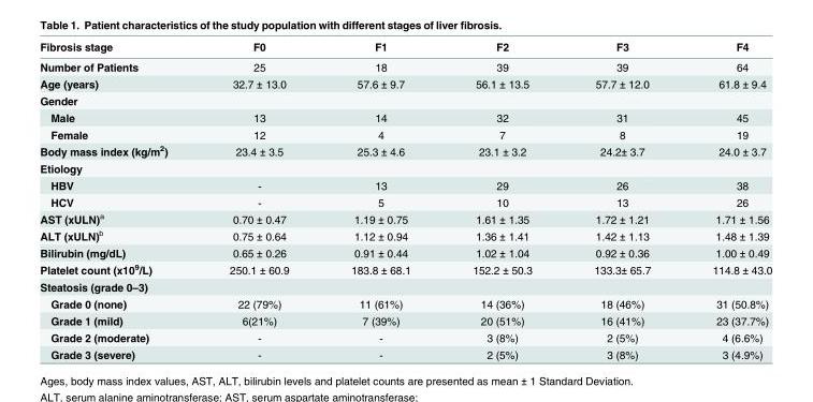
<table><thead><tr><td>Fibrosis stage</td><td>F0</td><td>F1</td><td>F2</td><td>F3</td><td>F4</td></tr></thead><tbody><tr><td>Number of Patients</td><td>25</td><td>18</td><td>39</td><td>39</td><td>64</td></tr><tr><td>Age (years)</td><td>32.7 ± 13.0</td><td>57.6 ± 9.7</td><td>56.1 ± 13.5</td><td>57.7 ± 12.0</td><td>61.8 ± 9.4</td></tr><tr><td colspan="6">Gender</td></tr><tr><td>Male</td><td>13</td><td>14</td><td>32</td><td>31</td><td>45</td></tr><tr><td>Female</td><td>12</td><td>4</td><td>7</td><td>8</td><td>19</td></tr><tr><td>Body mass index (kg/m<sup>2</sup>)</td><td>23.4 ± 3.5</td><td>25.3 ± 4.6</td><td>23.1 ± 3.2</td><td>24.2± 3.7</td><td>24.0 ± 3.7</td></tr><tr><td colspan="6">Etiology</td></tr><tr><td>HBV</td><td>-</td><td>13</td><td>29</td><td>26</td><td>38</td></tr><tr><td>HCV</td><td>-</td><td>5</td><td>10</td><td>13</td><td>26</td></tr><tr><td>AST (xULN)<sup>a</sup></td><td>0.70 ± 0.47</td><td>1.19 ± 0.75</td><td>1.61 ± 1.35</td><td>1.72 ± 1.21</td><td>1.71 ± 1.56</td></tr><tr><td>ALT (xULN)<sup>b</sup></td><td>0.75 ± 0.64</td><td>1.12 ± 0.94</td><td>1.36 ± 1.41</td><td>1.42 ± 1.13</td><td>1.48 ± 1.39</td></tr><tr><td>Bilirubin (mg/dL)</td><td>0.65 ± 0.26</td><td>0.91 ± 0.44</td><td>1.02 ± 1.04</td><td>0.92 ± 0.36</td><td>1.00 ± 0.49</td></tr><tr><td>Platelet count (x10<sup>9</sup>/L)</td><td>250.1 ± 60.9</td><td>183.8 ± 68.1</td><td>152.2 ± 50.3</td><td>133.3± 65.7</td><td>114.8 ± 43.0</td></tr><tr><td colspan="6">Steatosis (grade 0–3)</td></tr><tr><td>Grade 0 (none)</td><td>22 (79%)</td><td>11 (61%)</td><td>14 (36%)</td><td>18 (46%)</td><td>31 (50.8%)</td></tr><tr><td>Grade 1 (mild)</td><td>6(21%)</td><td>7 (39%)</td><td>20 (51%)</td><td>16 (41%)</td><td>23 (37.7%)</td></tr><tr><td>Grade 2 (moderate)</td><td>-</td><td>-</td><td>3 (8%)</td><td>2 (5%)</td><td>4 (6.6%)</td></tr><tr><td>Grade 3 (severe)</td><td>-</td><td>-</td><td>2 (5%)</td><td>3 (8%)</td><td>3 (4.9%)</td></tr></tbody></table>